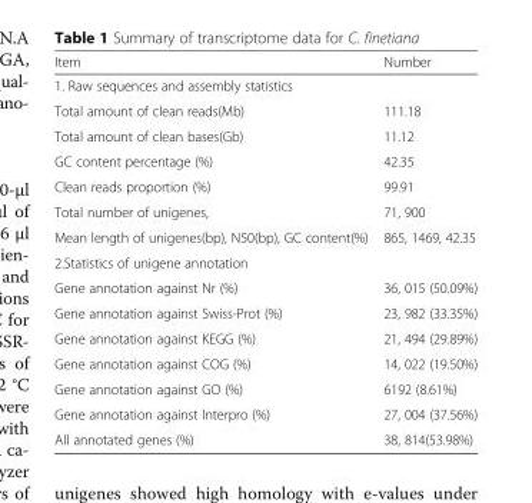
<table><thead><tr><td>Item</td><td>Number</td></tr></thead><tbody><tr><td colspan="2">1. Raw sequences and assembly statistics</td></tr><tr><td>Total amount of clean reads(Mb)</td><td>111.18</td></tr><tr><td>Total amount of clean bases(Gb)</td><td>11.12</td></tr><tr><td>GC content percentage (%)</td><td>42.35</td></tr><tr><td>Clean reads proportion (%)</td><td>99.91</td></tr><tr><td>Total number of unigenes,</td><td>71, 900</td></tr><tr><td>Mean length of unigenes(bp), N50(bp), GC content(%)</td><td>865, 1469, 42.35</td></tr><tr><td colspan="2">2.Statistics of unigene annotation</td></tr><tr><td>Gene annotation against Nr (%)</td><td>36, 015 (50.09%)</td></tr><tr><td>Gene annotation against Swiss-Prot (%)</td><td>23, 982 (33.35%)</td></tr><tr><td>Gene annotation against KEGG (%)</td><td>21, 494 (29.89%)</td></tr><tr><td>Gene annotation against COG (%)</td><td>14, 022 (19.50%)</td></tr><tr><td>Gene annotation against GO (%)</td><td>6192 (8.61%)</td></tr><tr><td>Gene annotation against Interpro (%)</td><td>27, 004 (37.56%)</td></tr><tr><td>All annotated genes (%)</td><td>38, 814(53.98%)</td></tr></tbody></table>